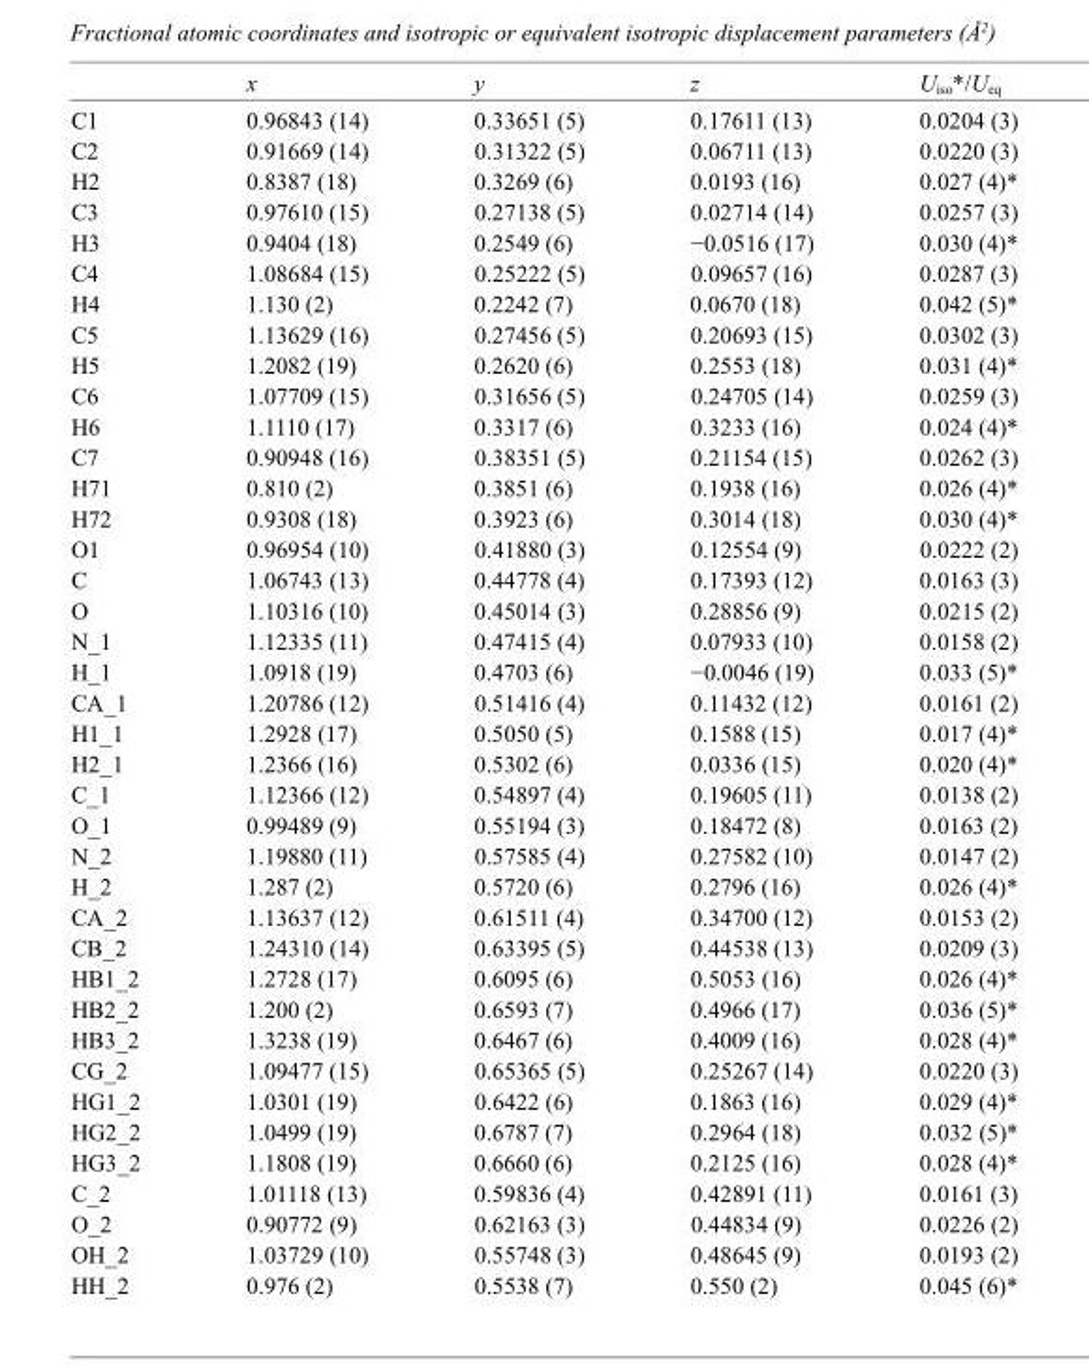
<table><thead><tr><td></td><td>x</td><td>y</td><td>z</td><td>U<sub>iso</sub>*/U<sub>eq</sub></td></tr></thead><tbody><tr><td>C1</td><td>0.96843 (14)</td><td>0.33651 (5)</td><td>0.17611 (13)</td><td>0.0204 (3)</td></tr><tr><td>C2</td><td>0.91669 (14)</td><td>0.31322 (5)</td><td>0.06711 (13)</td><td>0.0220 (3)</td></tr><tr><td>H2</td><td>0.8387 (18)</td><td>0.3269 (6)</td><td>0.0193 (16)</td><td>0.027 (4)*</td></tr><tr><td>C3</td><td>0.97610 (15)</td><td>0.27138 (5)</td><td>0.02714 (14)</td><td>0.0257 (3)</td></tr><tr><td>H3</td><td>0.9404 (18)</td><td>0.2549 (6)</td><td>−0.0516 (17)</td><td>0.030 (4)*</td></tr><tr><td>C4</td><td>1.08684 (15)</td><td>0.25222 (5)</td><td>0.09657 (16)</td><td>0.0287 (3)</td></tr><tr><td>H4</td><td>1.130 (2)</td><td>0.2242 (7)</td><td>0.0670 (18)</td><td>0.042 (5)*</td></tr><tr><td>C5</td><td>1.13629 (16)</td><td>0.27456 (5)</td><td>0.20693 (15)</td><td>0.0302 (3)</td></tr><tr><td>H5</td><td>1.2082 (19)</td><td>0.2620 (6)</td><td>0.2553 (18)</td><td>0.031 (4)*</td></tr><tr><td>C6</td><td>1.07709 (15)</td><td>0.31656 (5)</td><td>0.24705 (14)</td><td>0.0259 (3)</td></tr><tr><td>H6</td><td>1.1110 (17)</td><td>0.3317 (6)</td><td>0.3233 (16)</td><td>0.024 (4)*</td></tr><tr><td>C7</td><td>0.90948 (16)</td><td>0.38351 (5)</td><td>0.21154 (15)</td><td>0.0262 (3)</td></tr><tr><td>H71</td><td>0.810 (2)</td><td>0.3851 (6)</td><td>0.1938 (16)</td><td>0.026 (4)*</td></tr><tr><td>H72</td><td>0.9308 (18)</td><td>0.3923 (6)</td><td>0.3014 (18)</td><td>0.030 (4)*</td></tr><tr><td>O1</td><td>0.96954 (10)</td><td>0.41880 (3)</td><td>0.12554 (9)</td><td>0.0222 (2)</td></tr><tr><td>C</td><td>1.06743 (13)</td><td>0.44778 (4)</td><td>0.17393 (12)</td><td>0.0163 (3)</td></tr><tr><td>O</td><td>1.10316 (10)</td><td>0.45014 (3)</td><td>0.28856 (9)</td><td>0.0215 (2)</td></tr><tr><td>N_1</td><td>1.12335 (11)</td><td>0.47415 (4)</td><td>0.07933 (10)</td><td>0.0158 (2)</td></tr><tr><td>H_1</td><td>1.0918 (19)</td><td>0.4703 (6)</td><td>−0.0046 (19)</td><td>0.033 (5)*</td></tr><tr><td>CA_1</td><td>1.20786 (12)</td><td>0.51416 (4)</td><td>0.11432 (12)</td><td>0.0161 (2)</td></tr><tr><td>H1_1</td><td>1.2928 (17)</td><td>0.5050 (5)</td><td>0.1588 (15)</td><td>0.017 (4)*</td></tr><tr><td>H2_1</td><td>1.2366 (16)</td><td>0.5302 (6)</td><td>0.0336 (15)</td><td>0.020 (4)*</td></tr><tr><td>C_1</td><td>1.12366 (12)</td><td>0.54897 (4)</td><td>0.19605 (11)</td><td>0.0138 (2)</td></tr><tr><td>O_1</td><td>0.99489 (9)</td><td>0.55194 (3)</td><td>0.18472 (8)</td><td>0.0163 (2)</td></tr><tr><td>N_2</td><td>1.19880 (11)</td><td>0.57585 (4)</td><td>0.27582 (10)</td><td>0.0147 (2)</td></tr><tr><td>H_2</td><td>1.287 (2)</td><td>0.5720 (6)</td><td>0.2796 (16)</td><td>0.026 (4)*</td></tr><tr><td>CA_2</td><td>1.13637 (12)</td><td>0.61511 (4)</td><td>0.34700 (12)</td><td>0.0153 (2)</td></tr><tr><td>CB_2</td><td>1.24310 (14)</td><td>0.63395 (5)</td><td>0.44538 (13)</td><td>0.0209 (3)</td></tr><tr><td>HB1_2</td><td>1.2728 (17)</td><td>0.6095 (6)</td><td>0.5053 (16)</td><td>0.026 (4)*</td></tr><tr><td>HB2_2</td><td>1.200 (2)</td><td>0.6593 (7)</td><td>0.4966 (17)</td><td>0.036 (5)*</td></tr><tr><td>HB3_2</td><td>1.3238 (19)</td><td>0.6467 (6)</td><td>0.4009 (16)</td><td>0.028 (4)*</td></tr><tr><td>CG_2</td><td>1.09477 (15)</td><td>0.65365 (5)</td><td>0.25267 (14)</td><td>0.0220 (3)</td></tr><tr><td>HG1_2</td><td>1.0301 (19)</td><td>0.6422 (6)</td><td>0.1863 (16)</td><td>0.029 (4)*</td></tr><tr><td>HG2_2</td><td>1.0499 (19)</td><td>0.6787 (7)</td><td>0.2964 (18)</td><td>0.032 (5)*</td></tr><tr><td>HG3_2</td><td>1.1808 (19)</td><td>0.6660 (6)</td><td>0.2125 (16)</td><td>0.028 (4)*</td></tr><tr><td>C_2</td><td>1.01118 (13)</td><td>0.59836 (4)</td><td>0.42891 (11)</td><td>0.0161 (3)</td></tr><tr><td>O_2</td><td>0.90772 (9)</td><td>0.62163 (3)</td><td>0.44834 (9)</td><td>0.0226 (2)</td></tr><tr><td>OH_2</td><td>1.03729 (10)</td><td>0.55748 (3)</td><td>0.48645 (9)</td><td>0.0193 (2)</td></tr><tr><td>HH_2</td><td>0.976 (2)</td><td>0.5538 (7)</td><td>0.550 (2)</td><td>0.045 (6)*</td></tr></tbody></table>